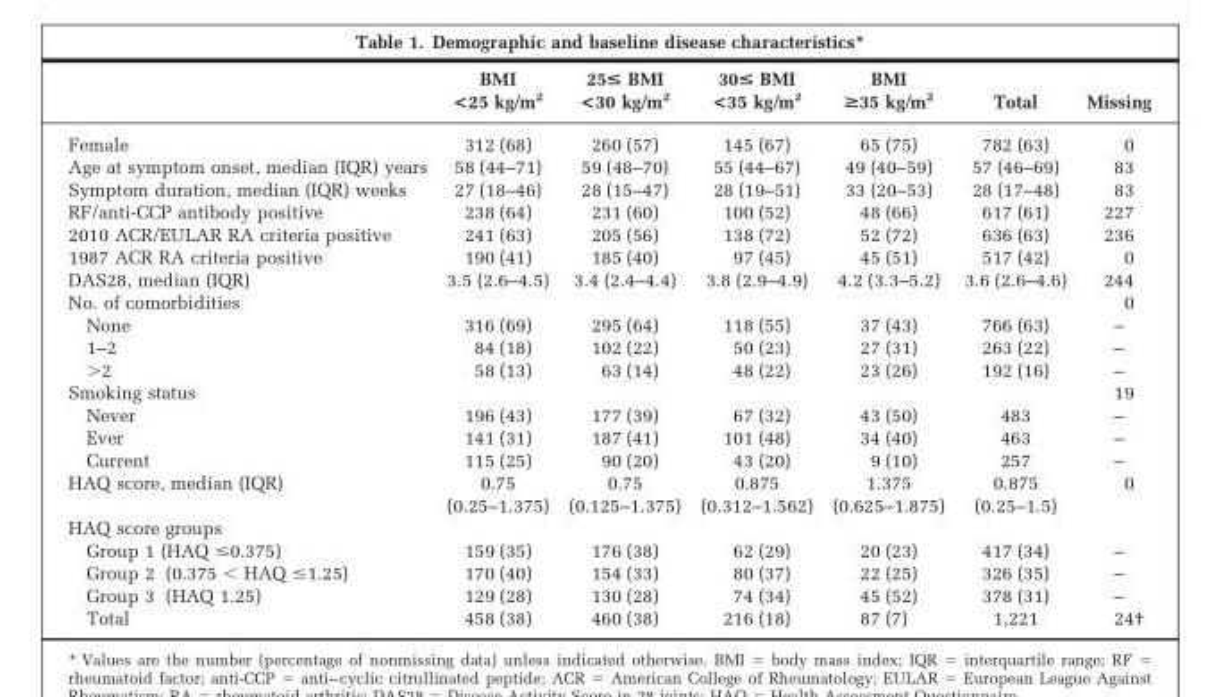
<table><thead><tr><td></td><td>BMI &lt;25 kg/m<sup>2</sup></td><td>25&lt; BMI &lt;30 kg/m2</td><td>30&lt; BMI &lt;35 kg/m2</td><td>BMI &gt;35 kg/m2</td><td>Total</td><td>Missing</td></tr></thead><tbody><tr><td>Female</td><td>312 (68)</td><td>260 (57)</td><td>145 (67)</td><td>65 (75)</td><td>782 (63)</td><td>0</td></tr><tr><td>Age at symptom onset, median (IQR) years</td><td>58 (44–71)</td><td>59 (48–70)</td><td>55 (44–67)</td><td>49 (40–59)</td><td>57 (46–69)</td><td>83</td></tr><tr><td>Symptom duration, median (IQR) weeks</td><td>27 (18–46)</td><td>28 (15–47)</td><td>28 (19–51)</td><td>33 (20–53)</td><td>28 (17–48)</td><td>83</td></tr><tr><td>RF/anti-CCP antibody positive</td><td>238 (64)</td><td>231 (60)</td><td>100 (52)</td><td>48 (66)</td><td>617 (61)</td><td>227</td></tr><tr><td>2010 ACR/EULAR RA criteria positive</td><td>241 (63)</td><td>205 (56)</td><td>138 (72)</td><td>52 (72)</td><td>636 (63)</td><td>236</td></tr><tr><td>1987 ACR RA criteria positive</td><td>190 (41)</td><td>185 (40)</td><td>97 (45)</td><td>45 (51)</td><td>517 (42)</td><td>0</td></tr><tr><td>DAS28, median (IQR)</td><td>3.5 (2.6–4.5)</td><td>3.4 (2.4–4.4)</td><td>3.8 (2.9–4.9)</td><td>4.2 (3.3–5.2)</td><td>3.6 (2.6–4.6)</td><td>244</td></tr><tr><td>No. of comorbidities</td><td></td><td></td><td></td><td></td><td></td><td>0</td></tr><tr><td>None</td><td>316 (69)</td><td>295 (64)</td><td>118 (55)</td><td>37 (43)</td><td>766 (63)</td><td>–</td></tr><tr><td>1–2</td><td>84 (18)</td><td>102 (22)</td><td>50 (23)</td><td>27 (31)</td><td>263 (22)</td><td>–</td></tr><tr><td>&gt;2</td><td>58 (13)</td><td>63 (14)</td><td>48 (22)</td><td>23 (26)</td><td>192 (16)</td><td>–</td></tr><tr><td>Smoking status</td><td></td><td></td><td></td><td></td><td></td><td>19</td></tr><tr><td>Never</td><td>196 (43)</td><td>177 (39)</td><td>67 (32)</td><td>43 (50)</td><td>483</td><td>–</td></tr><tr><td>Ever</td><td>141 (31)</td><td>187 (41)</td><td>101 (48)</td><td>34 (40)</td><td>463</td><td>–</td></tr><tr><td>Current</td><td>115 (25)</td><td>90 (20)</td><td>43 (20)</td><td>9 (10)</td><td>257</td><td>–</td></tr><tr><td>HAQ score, median (IQR)</td><td>0.75 (0.25–1.375)</td><td>0.75 (0.125–1.375)</td><td>0.875 (0.312–1.562)</td><td>1.375 (0.625–1.875)</td><td>0.875 (0.25–1.5)</td><td>0</td></tr><tr><td colspan="7">HAQ score groups</td></tr><tr><td>Group 1 (HAQ ≤0.375)</td><td>159 (35)</td><td>176 (38)</td><td>62 (29)</td><td>20 (23)</td><td>417 (34)</td><td>–</td></tr><tr><td>Group 2 (0.375 &lt; HAQ ≤1.25)</td><td>170 (40)</td><td>154 (33)</td><td>80 (37)</td><td>22 (25)</td><td>326 (35)</td><td>–</td></tr><tr><td>Group 3 (HAQ 1.25)</td><td>129 (28)</td><td>130 (28)</td><td>74 (34)</td><td>45 (52)</td><td>378 (31)</td><td>–</td></tr><tr><td>Total</td><td>458 (38)</td><td>460 (38)</td><td>216 (18)</td><td>87 (7)</td><td>1,221</td><td>24†</td></tr></tbody></table>